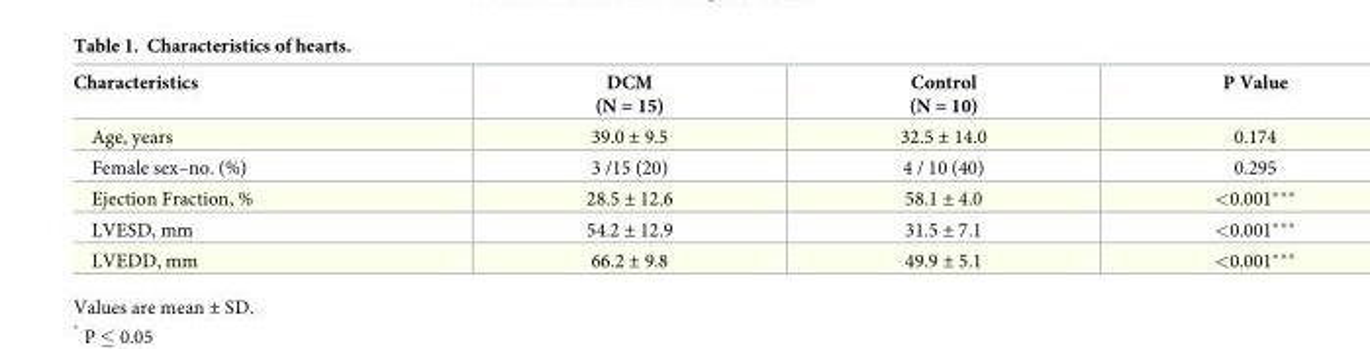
<table><thead><tr><td>Characteristics</td><td>DCM (N = 15)</td><td>Control (N = 10)</td><td>P Value</td></tr></thead><tbody><tr><td>Age, years</td><td>39.0 ± 9.5</td><td>32.5 ± 14.0</td><td>0.174</td></tr><tr><td>Female sex–no. (%)</td><td>3 /15 (20)</td><td>4 / 10 (40)</td><td>0.295</td></tr><tr><td>Ejection Fraction, %</td><td>28.5 ± 12.6</td><td>58.1 ± 4.0</td><td>&lt;0.001***</td></tr><tr><td>LVESD, mm</td><td>54.2 ± 12.9</td><td>31.5 ± 7.1</td><td>&lt;0.001***</td></tr><tr><td>LVEDD, mm</td><td>66.2 ± 9.8</td><td>49.9 ± 5.1</td><td>&lt;0.001***</td></tr></tbody></table>